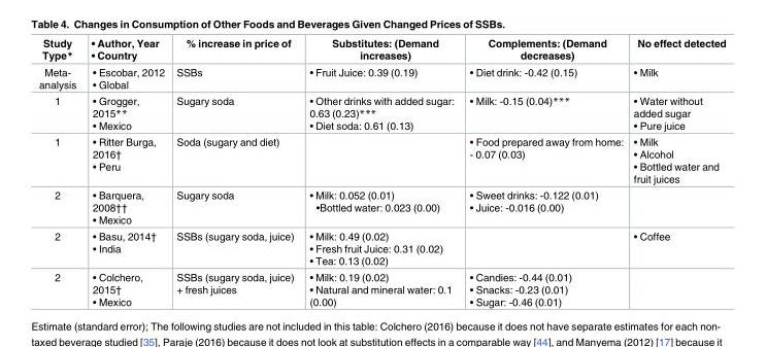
<table><thead><tr><td>Study Type*</td><td>• Author, Year • Country</td><td>% increase in price of</td><td>Substitutes: (Demand increases)</td><td>Complements: (Demand decreases)</td><td>No effect detected</td></tr></thead><tbody><tr><td>Meta- analysis</td><td>• Escobar, 2012 • Global</td><td>SSBs</td><td>• Fruit Juice: 0.39 (0.19)</td><td>• Diet drink: -0.42 (0.15)</td><td>• Milk</td></tr><tr><td>1</td><td>• Grogger, 2015** • Mexico</td><td>Sugary soda</td><td>• Other drinks with added sugar: 0.63 (0.23)*** • Diet soda: 0.61 (0.13)</td><td>• Milk: -0.15 (0.04)***</td><td>• Water without added sugar • Pure juice</td></tr><tr><td>1</td><td>• Ritter Burga, 2016† • Peru</td><td>Soda (sugary and diet)</td><td></td><td>• Food prepared away from home: - 0.07 (0.03)</td><td>• Milk • Alcohol • Bottled water and fruit juices</td></tr><tr><td>2</td><td>• Barquera, 2008†† • Mexico</td><td>Sugary soda</td><td>• Milk: 0.052 (0.01) •Bottled water: 0.023 (0.00)</td><td>• Sweet drinks: -0.122 (0.01) • Juice: -0.016 (0.00)</td><td></td></tr><tr><td>2</td><td>• Basu, 2014† • India</td><td>SSBs (sugary soda, juice)</td><td>• Milk: 0.49 (0.02) • Fresh fruit Juice: 0.31 (0.02) • Tea: 0.13 (0.02)</td><td></td><td>• Coffee</td></tr><tr><td>2</td><td>• Colchero, 2015† • Mexico</td><td>SSBs (sugary soda, juice) + fresh juices</td><td>• Milk: 0.19 (0.02) • Natural and mineral water: 0.1 (0.00)</td><td>• Candies: -0.44 (0.01) • Snacks: -0.23 (0.01) • Sugar: -0.46 (0.01)</td><td></td></tr></tbody></table>